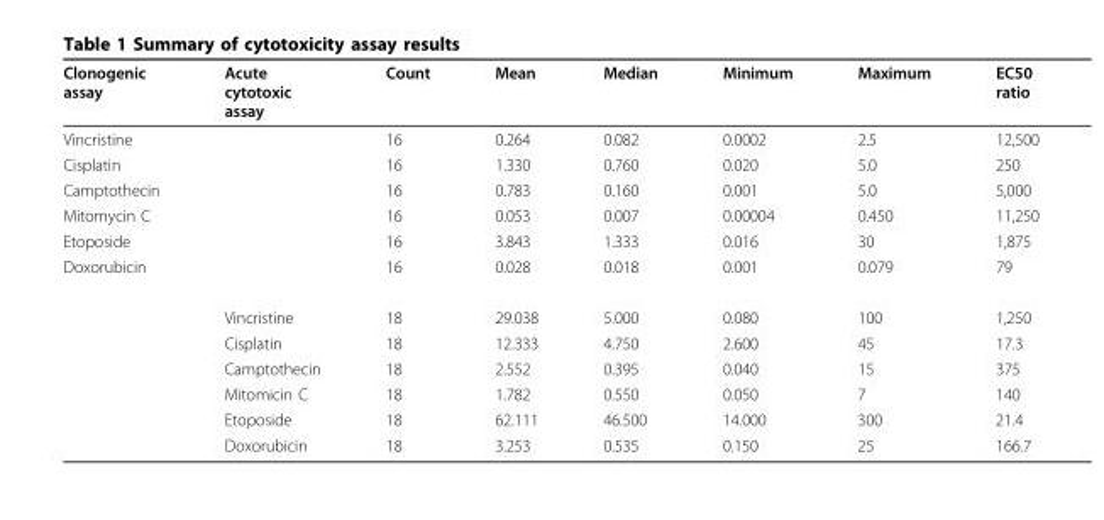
<table><thead><tr><td>Clonogenic assay</td><td>Acute cytotoxic assay</td><td>Count</td><td>Mean</td><td>Median</td><td>Minimum</td><td>Maximum</td><td>EC50 ratio</td></tr></thead><tbody><tr><td>Vincristine</td><td></td><td>16</td><td>0.264</td><td>0.082</td><td>0.0002</td><td>2.5</td><td>12,500</td></tr><tr><td>Cisplatin</td><td></td><td>16</td><td>1.330</td><td>0.760</td><td>0.020</td><td>5.0</td><td>250</td></tr><tr><td>Camptothecin</td><td></td><td>16</td><td>0.783</td><td>0.160</td><td>0.001</td><td>5.0</td><td>5,000</td></tr><tr><td>Mitomycin C</td><td></td><td>16</td><td>0.053</td><td>0.007</td><td>0.00004</td><td>0.450</td><td>11,250</td></tr><tr><td>Etoposide</td><td></td><td>16</td><td>3.843</td><td>1.333</td><td>0.016</td><td>30</td><td>1,875</td></tr><tr><td rowspan="7">Doxorubicin</td><td></td><td>16</td><td>0.028</td><td>0.018</td><td>0.001</td><td>0.079</td><td>79</td></tr><tr><td>Vincristine</td><td>18</td><td>29.038</td><td>5.000</td><td>0.080</td><td>100</td><td>1,250</td></tr><tr><td>Cisplatin</td><td>18</td><td>12.333</td><td>4.750</td><td>2.600</td><td>45</td><td>17.3</td></tr><tr><td>Camptothecin</td><td>18</td><td>2.552</td><td>0.395</td><td>0.040</td><td>15</td><td>375</td></tr><tr><td>Mitomicin C</td><td>18</td><td>1.782</td><td>0.550</td><td>0.050</td><td>7</td><td>140</td></tr><tr><td>Etoposide</td><td>18</td><td>62.111</td><td>46.500</td><td>14.000</td><td>300</td><td>21.4</td></tr><tr><td>Doxorubicin</td><td>18</td><td>3.253</td><td>0.535</td><td>0.150</td><td>25</td><td>166.7</td></tr></tbody></table>